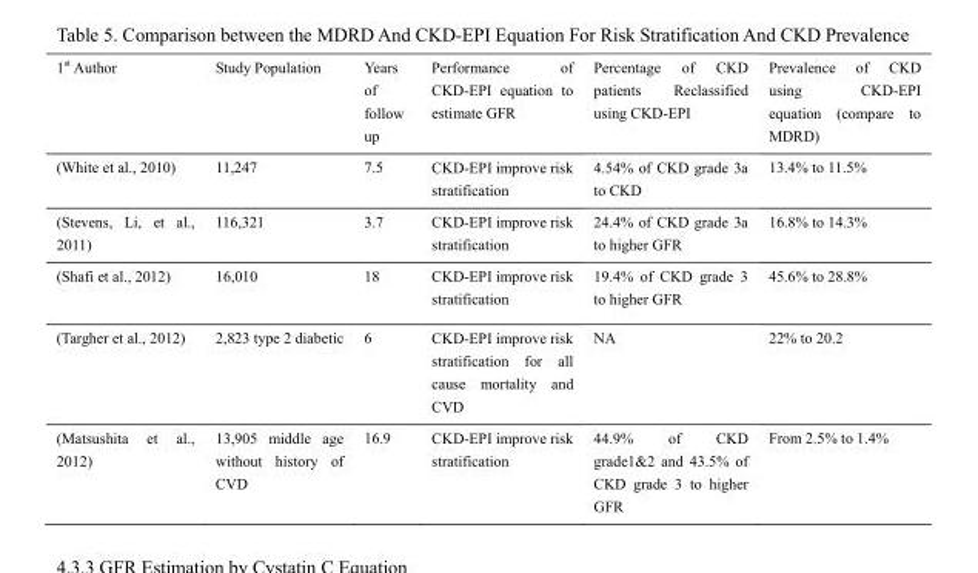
<table><thead><tr><td>1<sup>st</sup> Author</td><td>Study Population</td><td>Years of follow up</td><td>Performance of CKD-EPI equation to estimate GFR</td><td>Percentage of CKD patients Reclassified using CKD-EPI</td><td>Prevalence of CKD using CKD-EPI equation (compare to MDRD)</td></tr></thead><tbody><tr><td>(White et al., 2010)</td><td>11,247</td><td>7.5</td><td>CKD-EPI improve risk stratification</td><td>4.54% of CKD grade 3a to CKD</td><td>13.4% to 11.5%</td></tr><tr><td>(Stevens, Li, et al., 2011)</td><td>116,321</td><td>3.7</td><td>CKD-EPI improve risk stratification</td><td>24.4% of CKD grade 3a to higher GFR</td><td>16.8% to 14.3%</td></tr><tr><td>(Shafi et al., 2012)</td><td>16,010</td><td>18</td><td>CKD-EPI improve risk stratification</td><td>19.4% of CKD grade 3 to higher GFR</td><td>45.6% to 28.8%</td></tr><tr><td>(Targher et al., 2012)</td><td>2,823 type 2 diabetic</td><td>6</td><td>CKD-EPI improve risk stratification for all cause mortality and CVD</td><td>NA</td><td>22% to 20.2</td></tr><tr><td>(Matsushita et al., 2012)</td><td>13,905 middle age without history of CVD</td><td>16.9</td><td>CKD-EPI improve risk stratification</td><td>44.9% of CKD grade1&amp;2 and 43.5% of CKD grade 3 to higher GFR</td><td>From 2.5% to 1.4%</td></tr></tbody></table>